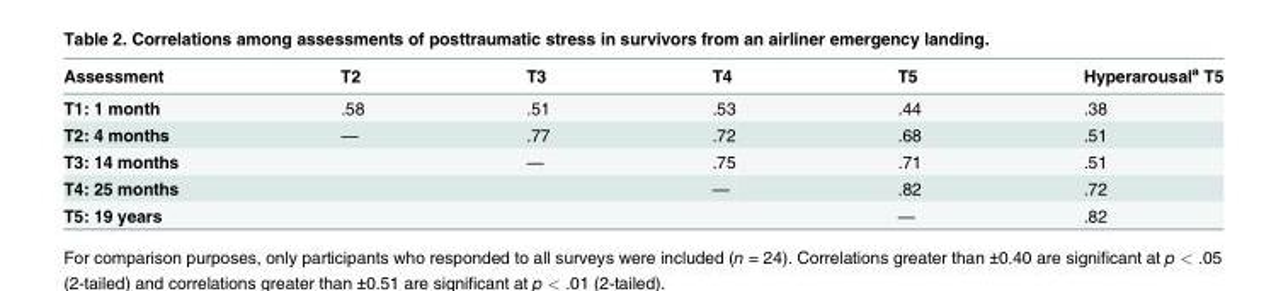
<table><thead><tr><td>Assessment</td><td>T2</td><td>T3</td><td>T4</td><td>T5</td><td>Hyperarousal<sup>a</sup> T5</td></tr></thead><tbody><tr><td>T1: 1 month</td><td>.58</td><td>.51</td><td>.53</td><td>.44</td><td>.38</td></tr><tr><td>T2: 4 months</td><td>—</td><td>.77</td><td>.72</td><td>.68</td><td>.51</td></tr><tr><td>T3: 14 months</td><td></td><td>—</td><td>.75</td><td>.71</td><td>.51</td></tr><tr><td>T4: 25 months</td><td></td><td></td><td>—</td><td>.82</td><td>.72</td></tr><tr><td>T5: 19 years</td><td></td><td></td><td></td><td>—</td><td>.82</td></tr></tbody></table>